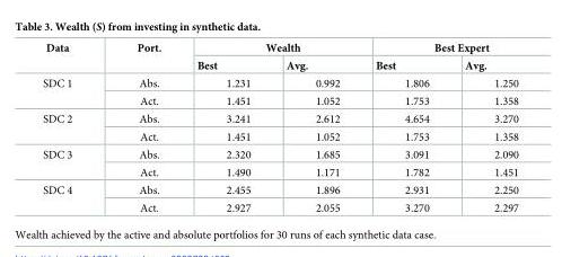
<table><thead><tr><td rowspan="2">Data</td><td rowspan="2">Port.</td><td colspan="2">Wealth</td><td colspan="2">Best Expert</td></tr><tr><td>Best</td><td>Avg.</td><td>Best</td><td>Avg.</td></tr></thead><tbody><tr><td rowspan="2">SDC 1</td><td>Abs.</td><td>1.231</td><td>0.992</td><td>1.806</td><td>1.250</td></tr><tr><td>Act.</td><td>1.451</td><td>1.052</td><td>1.753</td><td>1.358</td></tr><tr><td rowspan="2">SDC 2</td><td>Abs.</td><td>3.241</td><td>2.612</td><td>4.654</td><td>3.270</td></tr><tr><td>Act.</td><td>1.451</td><td>1.052</td><td>1.753</td><td>1.358</td></tr><tr><td rowspan="2">SDC 3</td><td>Abs.</td><td>2.320</td><td>1.685</td><td>3.091</td><td>2.090</td></tr><tr><td>Act.</td><td>1.490</td><td>1.171</td><td>1.782</td><td>1.451</td></tr><tr><td rowspan="2">SDC 4</td><td>Abs.</td><td>2.455</td><td>1.896</td><td>2.931</td><td>2.250</td></tr><tr><td>Act.</td><td>2.927</td><td>2.055</td><td>3.270</td><td>2.297</td></tr></tbody></table>